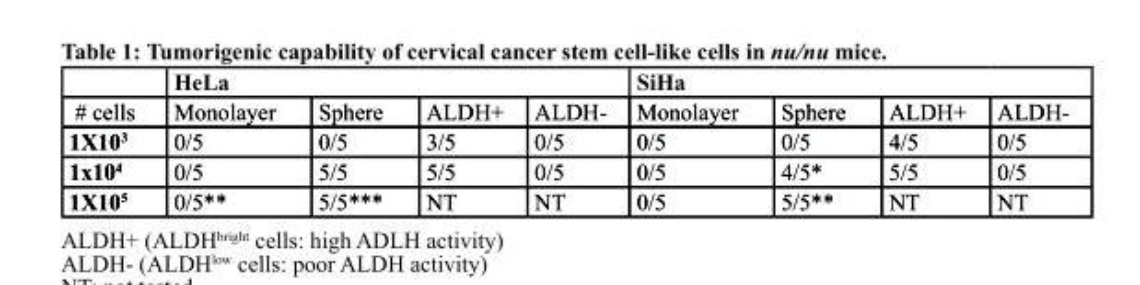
<table><thead><tr><td rowspan="2"># cells</td><td colspan="4">HeLa</td><td colspan="4">siHa</td></tr><tr><td>Monolayer</td><td>Sphere</td><td>ALDH+</td><td>ALDH-</td><td>Monolayer</td><td>Sphere</td><td>ALDH+</td><td>ALDH-</td></tr></thead><tbody><tr><td>1X103</td><td>0/5</td><td>0/5</td><td>3/5</td><td>0/5</td><td>0/5</td><td>0/5</td><td>4/5</td><td>0/5</td></tr><tr><td>1x104</td><td>0/5</td><td>5/5</td><td>5/5</td><td>0/5</td><td>0/5</td><td>4/5*</td><td>5/5</td><td>0/5</td></tr><tr><td>1X105</td><td>0/5**</td><td>5/5***</td><td>NT</td><td>NT</td><td>0/5</td><td>5/5**</td><td>NT</td><td>NT</td></tr></tbody></table>